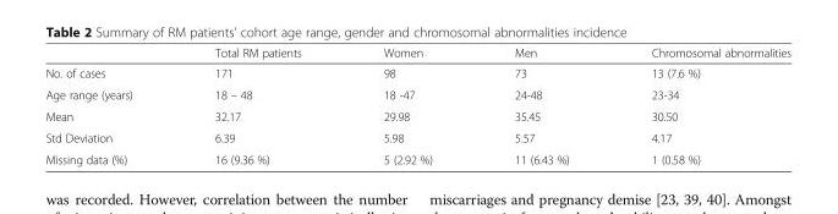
<table><thead><tr><td></td><td>Total RM patients</td><td>Women</td><td>Men</td><td>Chromosomal abnormalities</td></tr></thead><tbody><tr><td>No. of cases</td><td>171</td><td>98</td><td>73</td><td>13 (7.6 %)</td></tr><tr><td>Age range (years)</td><td>18 – 48</td><td>18 -47</td><td>24-48</td><td>23-34</td></tr><tr><td>Mean</td><td>32.17</td><td>29.98</td><td>35.45</td><td>30.50</td></tr><tr><td>Std Deviation</td><td>6.39</td><td>5.98</td><td>5.57</td><td>4.17</td></tr><tr><td>Missing data (%)</td><td>16 (9.36 %)</td><td>5 (2.92 %)</td><td>11 (6.43 %)</td><td>1 (0.58 %)</td></tr></tbody></table>